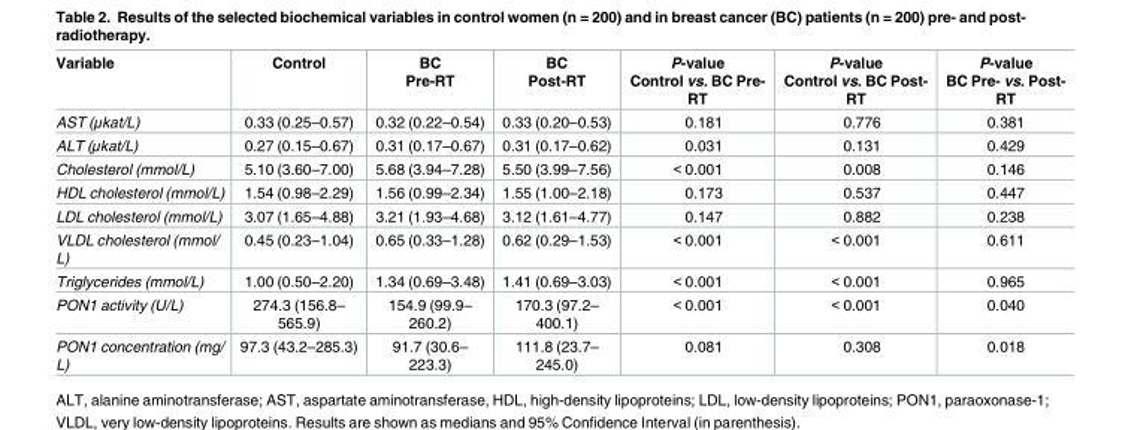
<table><thead><tr><td>Variable</td><td>Control</td><td>BC Pre-RT</td><td>BC Post-RT</td><td>P-value Control vs. BC Pre- RT</td><td>P-value Control vs. BC Post- RT</td><td>P-value BC Pre- vs. Post- RT</td></tr></thead><tbody><tr><td>AST (μkat/L)</td><td>0.33 (0.25–0.57)</td><td>0.32 (0.22–0.54)</td><td>0.33 (0.20–0.53)</td><td>0.181</td><td>0.776</td><td>0.381</td></tr><tr><td>ALT (μkat/L)</td><td>0.27 (0.15–0.67)</td><td>0.31 (0.17–0.67)</td><td>0.31 (0.17–0.62)</td><td>0.031</td><td>0.131</td><td>0.429</td></tr><tr><td>Cholesterol (mmol/L)</td><td>5.10 (3.60–7.00)</td><td>5.68 (3.94–7.28)</td><td>5.50 (3.99–7.56)</td><td>&lt; 0.001</td><td>0.008</td><td>0.146</td></tr><tr><td>HDL cholesterol (mmol/L)</td><td>1.54 (0.98–2.29)</td><td>1.56 (0.99–2.34)</td><td>1.55 (1.00–2.18)</td><td>0.173</td><td>0.537</td><td>0.447</td></tr><tr><td>LDL cholesterol (mmol/L)</td><td>3.07 (1.65–4.88)</td><td>3.21 (1.93–4.68)</td><td>3.12 (1.61–4.77)</td><td>0.147</td><td>0.882</td><td>0.238</td></tr><tr><td>VLDL cholesterol (mmol/ L)</td><td>0.45 (0.23–1.04)</td><td>0.65 (0.33–1.28)</td><td>0.62 (0.29–1.53)</td><td>&lt; 0.001</td><td>&lt; 0.001</td><td>0.611</td></tr><tr><td>Triglycerides (mmol/L)</td><td>1.00 (0.50–2.20)</td><td>1.34 (0.69–3.48)</td><td>1.41 (0.69–3.03)</td><td>&lt; 0.001</td><td>&lt; 0.001</td><td>0.965</td></tr><tr><td>PON1 activity (U/L)</td><td>274.3 (156.8– 565.9)</td><td>154.9 (99.9– 260.2)</td><td>170.3 (97.2– 400.1)</td><td>&lt; 0.001</td><td>&lt; 0.001</td><td>0.040</td></tr><tr><td>PON1 concentration (mg/ L)</td><td>97.3 (43.2–285.3)</td><td>91.7 (30.6– 223.3)</td><td>111.8 (23.7– 245.0)</td><td>0.081</td><td>0.308</td><td>0.018</td></tr></tbody></table>